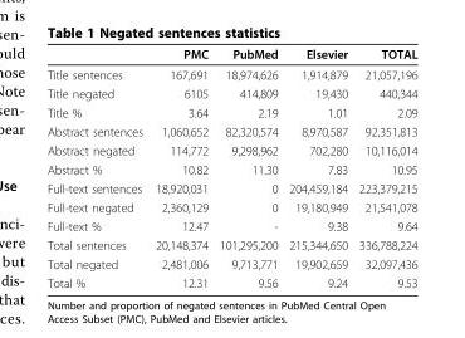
<table><thead><tr><td></td><td>PMC</td><td>PubMed</td><td>Elsevier</td><td>TOTAL</td></tr></thead><tbody><tr><td>Title sentences</td><td>167,691</td><td>18,974,626</td><td>1,914,879</td><td>21,057,196</td></tr><tr><td>Title negated</td><td>6105</td><td>414,809</td><td>19,430</td><td>440,344</td></tr><tr><td>Title %</td><td>3.64</td><td>2.19</td><td>1.01</td><td>2.09</td></tr><tr><td>Abstract sentences</td><td>1,060,652</td><td>82,320,574</td><td>8,970,587</td><td>92,351,813</td></tr><tr><td>Abstract negated</td><td>114,772</td><td>9,298,962</td><td>702,280</td><td>10,116,014</td></tr><tr><td>Abstract %</td><td>10.82</td><td>11.30</td><td>7.83</td><td>10.95</td></tr><tr><td>Full-text sentences</td><td>18,920,031</td><td>0</td><td>204,459,184</td><td>223,379,215</td></tr><tr><td>Full-text negated</td><td>2,360,129</td><td>0</td><td>19,180,949</td><td>21,541,078</td></tr><tr><td>Full-text %</td><td>12.47</td><td>-</td><td>9.38</td><td>9.64</td></tr><tr><td>Total sentences</td><td>20,148,374</td><td>101,295,200</td><td>215,344,650</td><td>336,788,224</td></tr><tr><td>Total negated</td><td>2,481,006</td><td>9,713,771</td><td>19,902,659</td><td>32,097,436</td></tr><tr><td>Total %</td><td>12.31</td><td>9.56</td><td>9.24</td><td>9.53</td></tr></tbody></table>